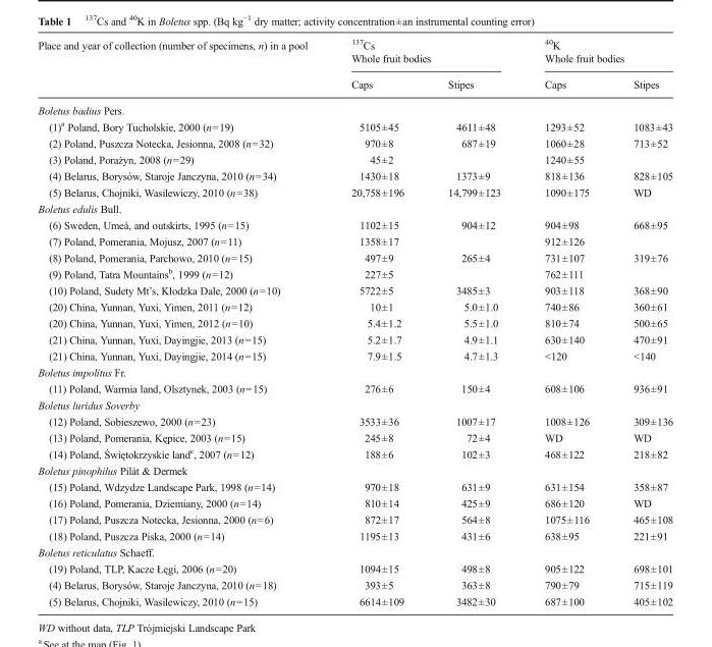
<table><thead><tr><td rowspan="3">Place and year of collection (number of specimens, n) in a pool</td><td><sup>137</sup>Cs</td><td></td><td><sup>40</sup>K</td><td></td></tr><tr><td colspan="2">Whole fruit bodies</td><td colspan="2">Whole fruit bodies</td></tr><tr><td>Caps</td><td>Stipes</td><td>Caps</td><td>Stipes</td></tr></thead><tbody><tr><td colspan="5">Boletus badius Pers.</td></tr><tr><td>(1)<sup>a</sup> Poland, Bory Tucholskie, 2000 (n=19)</td><td>5105±45</td><td>4611±48</td><td>1293±52</td><td>1083±43</td></tr><tr><td>(2) Poland, Puszcza Notecka, Jesionna, 2008 (n=32)</td><td>970±8</td><td>687±19</td><td>1060±28</td><td>713±52</td></tr><tr><td>(3) Poland, Porażyn, 2008 (n=29)</td><td>45±2</td><td></td><td colspan="2">1240±55</td></tr><tr><td>(4) Belarus, Borysów, Staroje Janczyna, 2010 (n=34)</td><td>1430±18</td><td>1373±9</td><td>818±136</td><td>828±105</td></tr><tr><td>(5) Belarus, Chojniki, Wasilewiczy, 2010 (n=38)</td><td>20,758±196</td><td>14,799±123</td><td>1090±175</td><td>WD</td></tr><tr><td colspan="5">Boletus edulis Bull.</td></tr><tr><td>(6) Sweden, Umeå, and outskirts, 1995 (n=15)</td><td>1102±15</td><td>904±12</td><td>904±98</td><td>668±95</td></tr><tr><td>(7) Poland, Pomerania, Mojusz, 2007 (n=11)</td><td>1358±17</td><td></td><td colspan="2">912±126</td></tr><tr><td>(8) Poland, Pomerania, Parchowo, 2010 (n=15)</td><td>497±9</td><td>265±4</td><td>731±107</td><td>319±76</td></tr><tr><td>(9) Poland, Tatra Mountains<sup>b</sup>, 1999 (n=12)</td><td>227±5</td><td></td><td colspan="2">762±111</td></tr><tr><td>(10) Poland, Sudety Mt’s, Kłodzka Dale, 2000 (n=10)</td><td>5722±5</td><td>3485±3</td><td>903±118</td><td>368±90</td></tr><tr><td>(20) China, Yunnan, Yuxi, Yimen, 2011 (n=12)</td><td>10±1</td><td>5.0±1.0</td><td>740±86</td><td>360±61</td></tr><tr><td>(20) China, Yunnan, Yuxi, Yimen, 2012 (n=10)</td><td>5.4±1.2</td><td>5.5±1.0</td><td>810±74</td><td>500±65</td></tr><tr><td>(21) China, Yunnan, Yuxi, Dayingjie, 2013 (n=15)</td><td>5.2±1.7</td><td>4.9±1.1</td><td>630±140</td><td>470±91</td></tr><tr><td>(21) China, Yunnan, Yuxi, Dayingjie, 2014 (n=15)</td><td>7.9±1.5</td><td>4.7±1.3</td><td>&lt;120</td><td>&lt;140</td></tr><tr><td colspan="5">Boletus impolitus Fr.</td></tr><tr><td>(11) Poland, Warmia land, Olsztynek, 2003 (n=15)</td><td>276±6</td><td>150±4</td><td>608±106</td><td>936±91</td></tr><tr><td colspan="5">Boletus luridus Soverby</td></tr><tr><td>(12) Poland, Sobieszewo, 2000 (n=23)</td><td>3533±36</td><td>1007±17</td><td>1008±126</td><td>309±136</td></tr><tr><td>(13) Poland, Pomerania, Kępice, 2003 (n=15)</td><td>245±8</td><td>72±4</td><td>WD</td><td>WD</td></tr><tr><td>(14) Poland, Świętokrzyskie land<sup>c</sup>, 2007 (n=12)</td><td>188±6</td><td>102±3</td><td>468±122</td><td>218±82</td></tr><tr><td colspan="5">Boletus pinophilus Pilát &amp; Dermek</td></tr><tr><td>(15) Poland, Wdzydze Landscape Park, 1998 (n=14)</td><td>970±18</td><td>631±9</td><td>631±154</td><td>358±87</td></tr><tr><td>(16) Poland, Pomerania, Dziemiany, 2000 (n=14)</td><td>810±14</td><td>425±9</td><td>686±120</td><td>WD</td></tr><tr><td>(17) Poland, Puszcza Notecka, Jesionna, 2000 (n=6)</td><td>872±17</td><td>564±8</td><td>1075±116</td><td>465±108</td></tr><tr><td>(18) Poland, Puszcza Piska, 2000 (n=14)</td><td>1195±13</td><td>431±6</td><td>638±95</td><td>221±91</td></tr><tr><td colspan="5">Boletus reticulatus Schaeff.</td></tr><tr><td>(19) Poland, TLP, Kacze Łęgi, 2006 (n=20)</td><td>1094±15</td><td>498±8</td><td>905±122</td><td>698±101</td></tr><tr><td>(4) Belarus, Borysów, Staroje Janczyna, 2010 (n=18)</td><td>393±5</td><td>363±8</td><td>790±79</td><td>715±119</td></tr><tr><td>(5) Belarus, Chojniki, Wasilewiczy, 2010 (n=15)</td><td>6614±109</td><td>3482±30</td><td>687±100</td><td>405±102</td></tr></tbody></table>